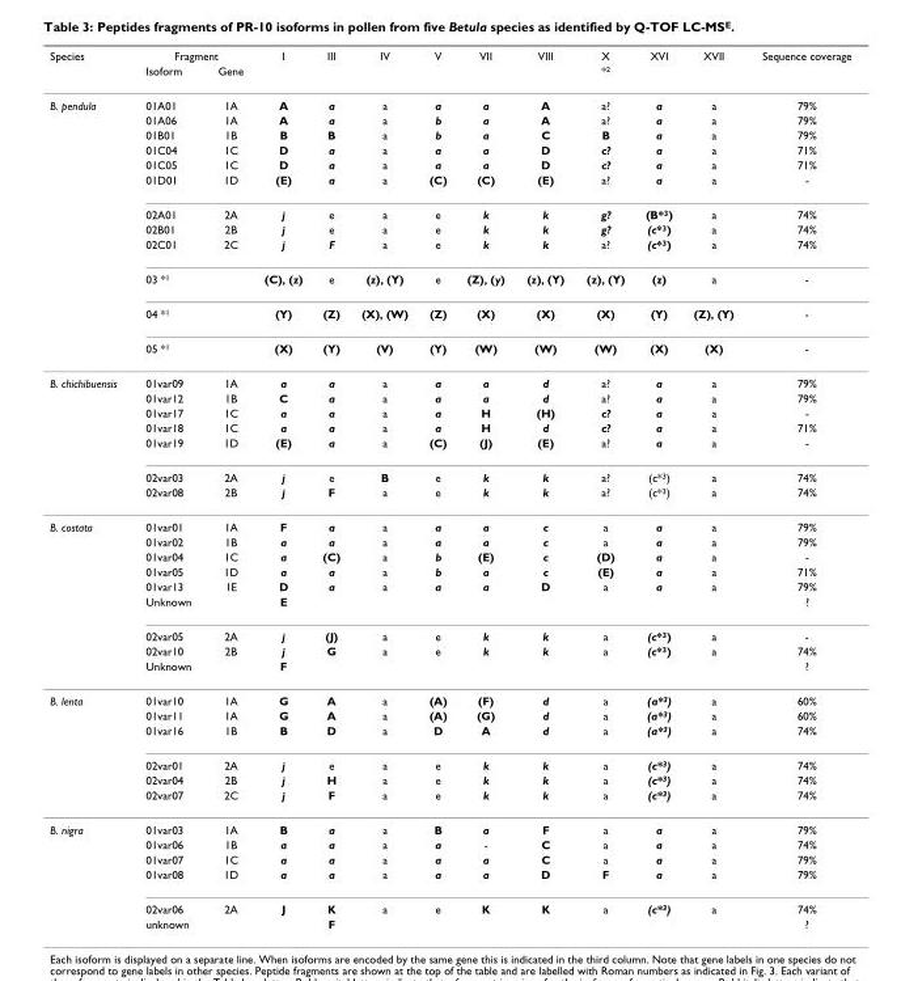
<table><thead><tr><td rowspan="2">Species</td><td colspan="2">Fragment</td><td rowspan="2">I</td><td rowspan="2">III</td><td rowspan="2">IV</td><td rowspan="2">V</td><td rowspan="2">VII</td><td rowspan="2">VIII</td><td rowspan="2">X *2</td><td rowspan="2">XVI</td><td rowspan="2">XVII</td><td rowspan="2">Sequence coverage</td></tr><tr><td>Isoform</td><td>Gene</td></tr></thead><tbody><tr><td rowspan="12">B. pendula</td><td>01A01</td><td>1A</td><td>A</td><td>a</td><td>a</td><td>a</td><td>a</td><td>A</td><td>a?</td><td>a</td><td>a</td><td>79%</td></tr><tr><td>01A06</td><td>1A</td><td>A</td><td>a</td><td>a</td><td>b</td><td>a</td><td>A</td><td>a?</td><td>a</td><td>a</td><td>79%</td></tr><tr><td>01B01</td><td>1B</td><td>B</td><td>B</td><td>a</td><td>b</td><td>a</td><td>C</td><td>B</td><td>a</td><td>a</td><td>79%</td></tr><tr><td>01C04</td><td>1C</td><td>D</td><td>a</td><td>a</td><td>a</td><td>a</td><td>D</td><td>c?</td><td>a</td><td>a</td><td>71%</td></tr><tr><td>01C05</td><td>1C</td><td>D</td><td>a</td><td>a</td><td>a</td><td>a</td><td>D</td><td>c?</td><td>a</td><td>a</td><td>71%</td></tr><tr><td>01D01</td><td>1D</td><td>(E)</td><td>a</td><td>a</td><td>(C)</td><td>(C)</td><td>(E)</td><td>a?</td><td>a</td><td>a</td><td>-</td></tr><tr><td>02A01</td><td>2A</td><td>j</td><td>e</td><td>a</td><td>e</td><td>k</td><td>k</td><td>g?</td><td>(B*<sup>3</sup>)</td><td>a</td><td>74%</td></tr><tr><td>02B01</td><td>2B</td><td>j</td><td>e</td><td>a</td><td>e</td><td>k</td><td>k</td><td>g?</td><td>(c*<sup>3</sup>)</td><td>a</td><td>74%</td></tr><tr><td>02C01</td><td>2C</td><td>j</td><td>F</td><td>a</td><td>e</td><td>k</td><td>k</td><td>a?</td><td>(c*<sup>3</sup>)</td><td>a</td><td>74%</td></tr><tr><td>03 *<sup>1</sup></td><td></td><td>(C), (z)</td><td>e</td><td>(z), (Y)</td><td>e</td><td>(Z), (y)</td><td>(z), (Y)</td><td>(z), (Y)</td><td>(z)</td><td>a</td><td>-</td></tr><tr><td>04 *<sup>1</sup></td><td></td><td>(Y)</td><td>(Z)</td><td>(X), (W)</td><td>(Z)</td><td>(X)</td><td>(X)</td><td>(X)</td><td>(Y)</td><td>(Z), (Y)</td><td>-</td></tr><tr><td>05 *<sup>1</sup></td><td></td><td>(X)</td><td>(Y)</td><td>(V)</td><td>(Y)</td><td>(W)</td><td>(W)</td><td>(W)</td><td>(X)</td><td>(X)</td><td>-</td></tr><tr><td rowspan="7">B. chichibuensis</td><td>01var09</td><td>1A</td><td>a</td><td>a</td><td>a</td><td>a</td><td>a</td><td>d</td><td>a?</td><td>a</td><td>a</td><td>79%</td></tr><tr><td>01var12</td><td>1B</td><td>C</td><td>a</td><td>a</td><td>a</td><td>a</td><td>d</td><td>a?</td><td>a</td><td>a</td><td>79%</td></tr><tr><td>01var17</td><td>1C</td><td>a</td><td>a</td><td>a</td><td>a</td><td>H</td><td>(H)</td><td>c?</td><td>a</td><td>a</td><td>-</td></tr><tr><td>01var18</td><td>1C</td><td>a</td><td>a</td><td>a</td><td>a</td><td>H</td><td>d</td><td>c?</td><td>a</td><td>a</td><td>71%</td></tr><tr><td>01var19</td><td>1D</td><td>(E)</td><td>a</td><td>a</td><td>(C)</td><td>(J)</td><td>(E)</td><td>a?</td><td>a</td><td>a</td><td>-</td></tr><tr><td>02var03</td><td>2A</td><td>j</td><td>e</td><td>B</td><td>e</td><td>k</td><td>k</td><td>a?</td><td>(c*<sup>3</sup>)</td><td>a</td><td>74%</td></tr><tr><td>02var08</td><td>2B</td><td>j</td><td>F</td><td>a</td><td>e</td><td>k</td><td>k</td><td>a?</td><td>(c*<sup>3</sup>)</td><td>a</td><td>74%</td></tr><tr><td rowspan="9">B. costata</td><td>01var01</td><td>1A</td><td>F</td><td>a</td><td>a</td><td>a</td><td>a</td><td>c</td><td>a</td><td>a</td><td>a</td><td>79%</td></tr><tr><td>01var02</td><td>1B</td><td>a</td><td>a</td><td>a</td><td>a</td><td>a</td><td>c</td><td>a</td><td>a</td><td>a</td><td>79%</td></tr><tr><td>01var04</td><td>1C</td><td>a</td><td>(C)</td><td>a</td><td>b</td><td>(E)</td><td>c</td><td>(D)</td><td>a</td><td>a</td><td>-</td></tr><tr><td>01var05</td><td>1D</td><td>a</td><td>a</td><td>a</td><td>b</td><td>a</td><td>c</td><td>(E)</td><td>a</td><td>a</td><td>71%</td></tr><tr><td>01var13</td><td>1E</td><td>D</td><td>a</td><td>a</td><td>a</td><td>a</td><td>D</td><td>a</td><td>a</td><td>a</td><td>79%</td></tr><tr><td>Unknown</td><td></td><td>E</td><td></td><td></td><td></td><td></td><td></td><td></td><td></td><td></td><td>?</td></tr><tr><td>02var05</td><td>2A</td><td>j</td><td>(J)</td><td>a</td><td>e</td><td>k</td><td>k</td><td>a</td><td>(c*<sup>3</sup>)</td><td>a</td><td>-</td></tr><tr><td>02var10</td><td>2B</td><td>j</td><td>G</td><td>a</td><td>e</td><td>k</td><td>k</td><td>a</td><td>(c*<sup>3</sup>)</td><td>a</td><td>74%</td></tr><tr><td>Unknown</td><td></td><td>F</td><td></td><td></td><td></td><td></td><td></td><td></td><td></td><td></td><td>?</td></tr><tr><td rowspan="6">B. lenta</td><td>01var10</td><td>1A</td><td>G</td><td>A</td><td>a</td><td>(A)</td><td>(F)</td><td>d</td><td>a</td><td>(a*<sup>3</sup>)</td><td>a</td><td>60%</td></tr><tr><td>01var11</td><td>1A</td><td>G</td><td>A</td><td>a</td><td>(A)</td><td>(G)</td><td>d</td><td>a</td><td>(a*<sup>3</sup>)</td><td>a</td><td>60%</td></tr><tr><td>01var16</td><td>1B</td><td>B</td><td>D</td><td>a</td><td>D</td><td>A</td><td>d</td><td>a</td><td>(a*<sup>3</sup>)</td><td>a</td><td>74%</td></tr><tr><td>02var01</td><td>2A</td><td>j</td><td>e</td><td>a</td><td>e</td><td>k</td><td>k</td><td>a</td><td>(c*<sup>3</sup>)</td><td>a</td><td>74%</td></tr><tr><td>02var04</td><td>2B</td><td>j</td><td>H</td><td>a</td><td>e</td><td>k</td><td>k</td><td>a</td><td>(c*<sup>3</sup>)</td><td>a</td><td>74%</td></tr><tr><td>02var07</td><td>2C</td><td>j</td><td>F</td><td>a</td><td>e</td><td>k</td><td>k</td><td>a</td><td>(c*<sup>3</sup>)</td><td>a</td><td>74%</td></tr><tr><td rowspan="6">B. nigra</td><td>01var03</td><td>1A</td><td>B</td><td>a</td><td>a</td><td>B</td><td>a</td><td>F</td><td>a</td><td>a</td><td>a</td><td>79%</td></tr><tr><td>01var06</td><td>1B</td><td>a</td><td>a</td><td>a</td><td>a</td><td>-</td><td>C</td><td>a</td><td>a</td><td>a</td><td>74%</td></tr><tr><td>01var07</td><td>1C</td><td>a</td><td>a</td><td>a</td><td>a</td><td>a</td><td>C</td><td>a</td><td>a</td><td>a</td><td>79%</td></tr><tr><td>01var08</td><td>1D</td><td>a</td><td>a</td><td>a</td><td>a</td><td>a</td><td>D</td><td>F</td><td>a</td><td>a</td><td>79%</td></tr><tr><td>02var06</td><td>2A</td><td>J</td><td>K</td><td>a</td><td>e</td><td>K</td><td>K</td><td>a</td><td>(c*<sup>3</sup>)</td><td>a</td><td>74%</td></tr><tr><td>unknown</td><td></td><td></td><td>F</td><td></td><td></td><td></td><td></td><td></td><td></td><td></td><td>?</td></tr></tbody></table>